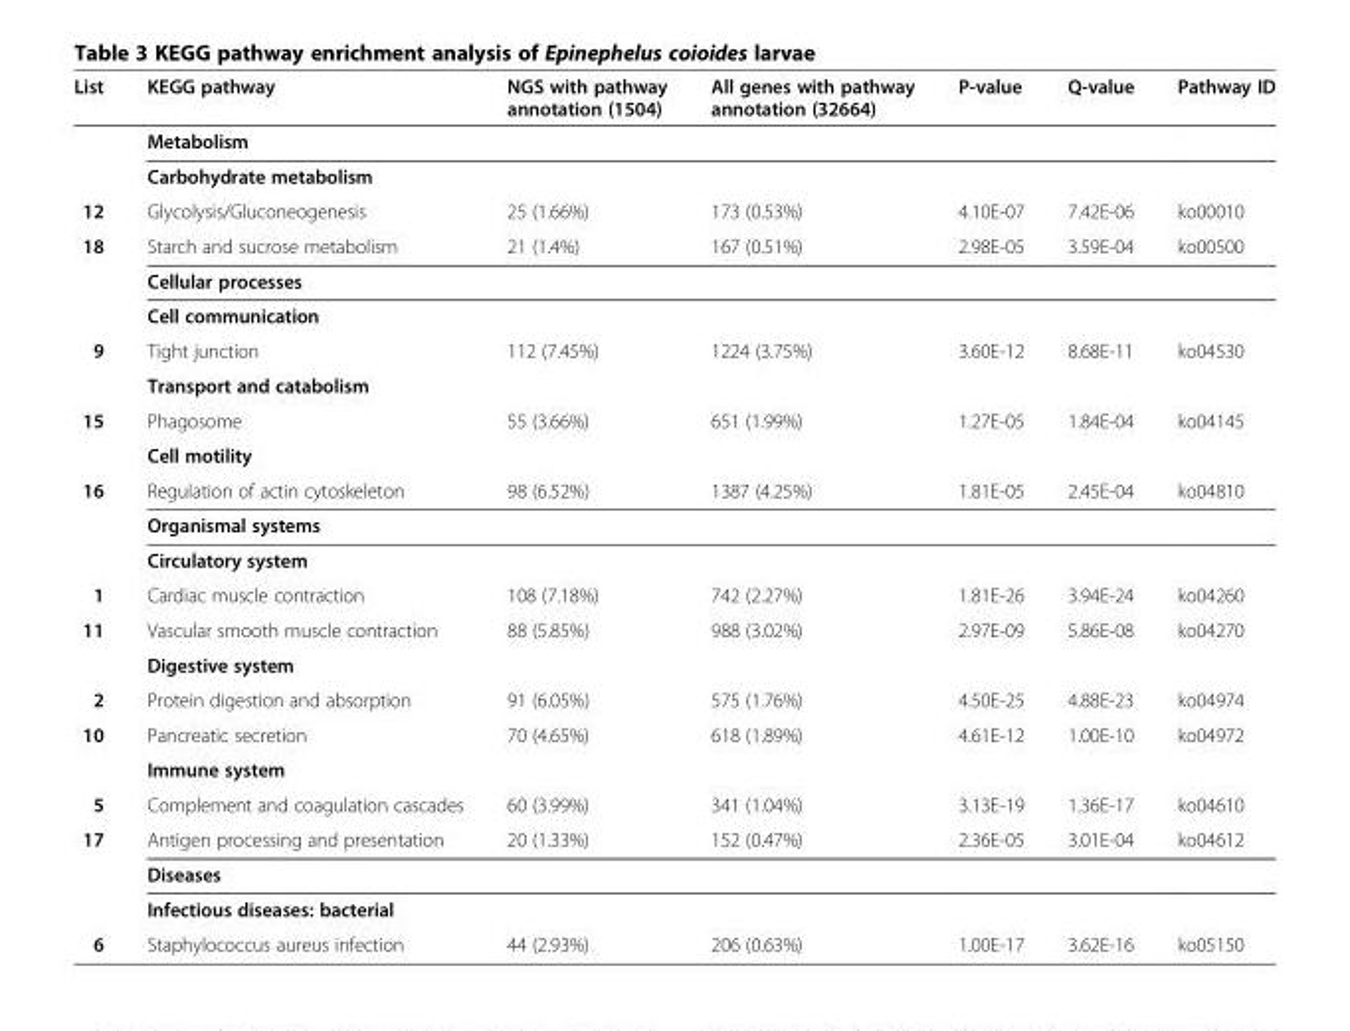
<table><thead><tr><td>List</td><td>KEGG pathway</td><td>NGS with pathway annotation (1504)</td><td>All genes with pathway annotation (32664)</td><td>P-value</td><td>Q-value</td><td>Pathway ID</td></tr></thead><tbody><tr><td></td><td>Metabolism</td><td></td><td></td><td></td><td></td><td></td></tr><tr><td></td><td>Carbohydrate metabolism</td><td></td><td></td><td></td><td></td><td></td></tr><tr><td>12</td><td>Glycolysis/Gluconeogenesis</td><td>25 (1.66%)</td><td>173 (0.53%)</td><td>4.10E-07</td><td>7.42E-06</td><td>ko00010</td></tr><tr><td rowspan="3">18</td><td>Starch and sucrose metabolism</td><td>21 (1.4%)</td><td>167 (0.51%)</td><td>2.98E-05</td><td>3.59E-04</td><td>ko00500</td></tr><tr><td>Cellular processes</td><td></td><td></td><td></td><td></td><td></td></tr><tr><td>Cell communication</td><td></td><td></td><td></td><td></td><td></td></tr><tr><td rowspan="2">9</td><td>Tight junction</td><td>112 (7.45%)</td><td>1224 (3.75%)</td><td>3.60E-12</td><td>8.68E-11</td><td>ko04530</td></tr><tr><td>Transport and catabolism</td><td></td><td></td><td></td><td></td><td></td></tr><tr><td rowspan="2">15</td><td>Phagosome</td><td>55 (3.66%)</td><td>651 (1.99%)</td><td>1.27E-05</td><td>1.84E-04</td><td>ko04145</td></tr><tr><td>Cell motility</td><td></td><td></td><td></td><td></td><td></td></tr><tr><td rowspan="3">16</td><td>Regulation of actin cytoskeleton</td><td>98 (6.52%)</td><td>1387 (4.25%)</td><td>1.81E-05</td><td>2.45E-04</td><td>ko04810</td></tr><tr><td>Organismal systems</td><td></td><td></td><td></td><td></td><td></td></tr><tr><td>Circulatory system</td><td></td><td></td><td></td><td></td><td></td></tr><tr><td>1</td><td>Cardiac muscle contraction</td><td>108 (7.18%)</td><td>742 (2.27%)</td><td>1.81E-26</td><td>3.94E-24</td><td>ko04260</td></tr><tr><td rowspan="2">11</td><td>Vascular smooth muscle contraction</td><td>88 (5.85%)</td><td>988 (3.02%)</td><td>2.97E-09</td><td>5.86E-08</td><td>ko04270</td></tr><tr><td>Digestive system</td><td></td><td></td><td></td><td></td><td></td></tr><tr><td>2</td><td>Protein digestion and absorption</td><td>91 (6.05%)</td><td>575 (1.76%)</td><td>4.50E-25</td><td>4.88E-23</td><td>ko04974</td></tr><tr><td rowspan="2">10</td><td>Pancreatic secretion</td><td>70 (4.65%)</td><td>618 (1.89%)</td><td>4.61E-12</td><td>1.00E-10</td><td>ko04972</td></tr><tr><td>Immune system</td><td></td><td></td><td></td><td></td><td></td></tr><tr><td>5</td><td>Complement and coagulation cascades</td><td>60 (3.99%)</td><td>341 (1.04%)</td><td>3.13E-19</td><td>1.36E-17</td><td>ko04610</td></tr><tr><td rowspan="3">17</td><td>Antigen processing and presentation</td><td>20 (1.33%)</td><td>152 (0.47%)</td><td>2.36E-05</td><td>3.01E-04</td><td>ko04612</td></tr><tr><td>Diseases</td><td></td><td></td><td></td><td></td><td></td></tr><tr><td>Infectious diseases: bacterial</td><td></td><td></td><td></td><td></td><td></td></tr><tr><td>6</td><td>Staphylococcus aureus infection</td><td>44 (2.93%)</td><td>206 (0.63%)</td><td>1.00E-17</td><td>3.62E-16</td><td>ko05150</td></tr></tbody></table>